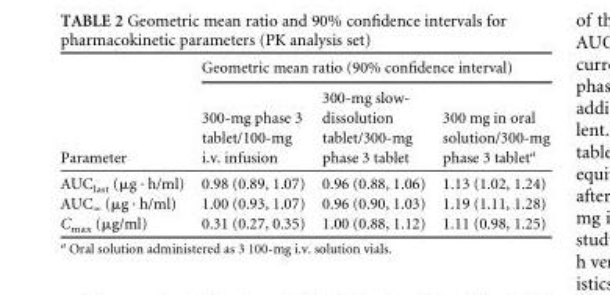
<table><thead><tr><td rowspan="2">Parameter</td><td colspan="3">Geometric mean ratio (90% confidence interval)</td></tr><tr><td>300-mg phase 3 tablet/100-mg i.v. infusion</td><td>300-mg slow- dissolution tablet/300-mg phase 3 tablet</td><td>300 mg in oral solution/300-mg phase 3 tablet<sup>a</sup></td></tr></thead><tbody><tr><td>AUC<sub>last</sub> (μg · h/ml)</td><td>0.98 (0.89, 1.07)</td><td>0.96 (0.88, 1.06)</td><td>1.13 (1.02, 1.24)</td></tr><tr><td>AUC<sub>∞</sub> (μg · h/ml)</td><td>1.00 (0.93, 1.07)</td><td>0.96 (0.90, 1.03)</td><td>1.19 (1.11, 1.28)</td></tr><tr><td>C<sub>max</sub> (μg/ml)</td><td>0.31 (0.27, 0.35)</td><td>1.00 (0.88, 1.12)</td><td>1.11 (0.98, 1.25)</td></tr></tbody></table>